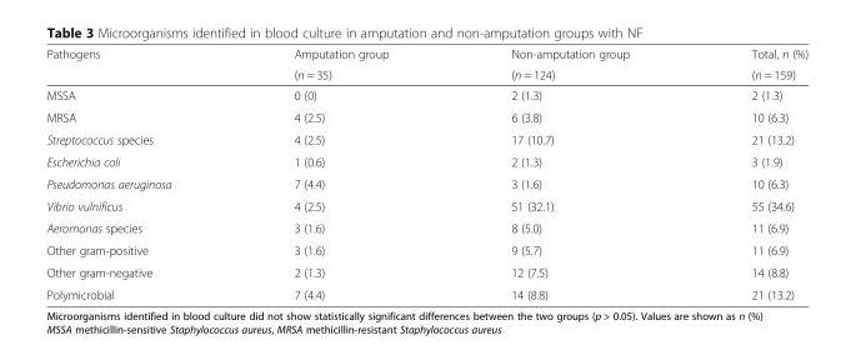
<table><thead><tr><td rowspan="2">Pathogens</td><td rowspan="2">Amputation group (n = 35)</td><td rowspan="2">Non-amputation group (n = 124)</td><td rowspan="2">Total, n (%) (n = 159)</td></tr><tr></tr></thead><tbody><tr><td>MSSA</td><td>0 (0)</td><td>2 (1.3)</td><td>2 (1.3)</td></tr><tr><td>MRSA</td><td>4 (2.5)</td><td>6 (3.8)</td><td>10 (6.3)</td></tr><tr><td>Streptococcus species</td><td>4 (2.5)</td><td>17 (10.7)</td><td>21 (13.2)</td></tr><tr><td>Escherichia coli</td><td>1 (0.6)</td><td>2 (1.3)</td><td>3 (1.9)</td></tr><tr><td>Pseudomonas aeruginosa</td><td>7 (4.4)</td><td>3 (1.6)</td><td>10 (6.3)</td></tr><tr><td>Vibrio vulnificus</td><td>4 (2.5)</td><td>51 (32.1)</td><td>55 (34.6)</td></tr><tr><td>Aeromonas species</td><td>3 (1.6)</td><td>8 (5.0)</td><td>11 (6.9)</td></tr><tr><td>Other gram-positive</td><td>3 (1.6)</td><td>9 (5.7)</td><td>11 (6.9)</td></tr><tr><td>Other gram-negative</td><td>2 (1.3)</td><td>12 (7.5)</td><td>14 (8.8)</td></tr><tr><td>Polymicrobial</td><td>7 (4.4)</td><td>14 (8.8)</td><td>21 (13.2)</td></tr></tbody></table>